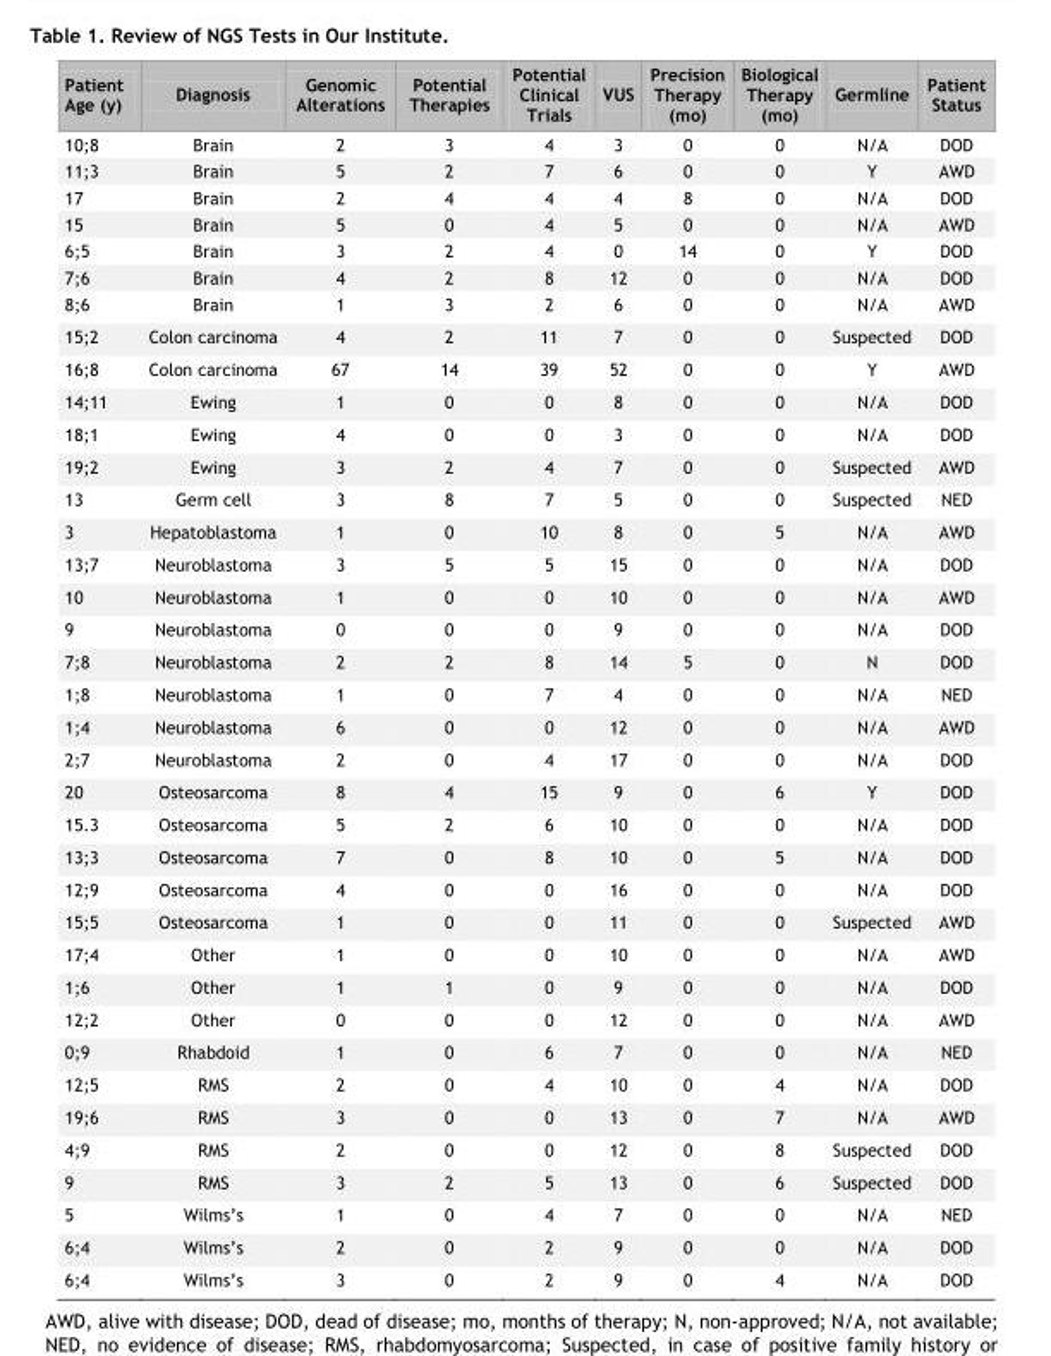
<table><thead><tr><td>Patient Age (y)</td><td>Diagnosis</td><td>Genomic Alterations</td><td>Potential Therapies</td><td>Potential Clinical Trials</td><td>VUS</td><td>Precision Therapy (mo)</td><td>Biological Therapy (mo)</td><td>Germline</td><td>Patient Status</td></tr></thead><tbody><tr><td>10;8</td><td>Brain</td><td>2</td><td>3</td><td>4</td><td>3</td><td>0</td><td>0</td><td>N/A</td><td>DOD</td></tr><tr><td>11;3</td><td>Brain</td><td>5</td><td>2</td><td>7</td><td>6</td><td>0</td><td>0</td><td>Y</td><td>AWD</td></tr><tr><td>17</td><td>Brain</td><td>2</td><td>4</td><td>4</td><td>4</td><td>8</td><td>0</td><td>N/A</td><td>DOD</td></tr><tr><td>15</td><td>Brain</td><td>5</td><td>0</td><td>4</td><td>5</td><td>0</td><td>0</td><td>N/A</td><td>AWD</td></tr><tr><td>6;5</td><td>Brain</td><td>3</td><td>2</td><td>4</td><td>0</td><td>14</td><td>0</td><td>Y</td><td>DOD</td></tr><tr><td>7;6</td><td>Brain</td><td>4</td><td>2</td><td>8</td><td>12</td><td>0</td><td>0</td><td>N/A</td><td>DOD</td></tr><tr><td>8;6</td><td>Brain</td><td>1</td><td>3</td><td>2</td><td>6</td><td>0</td><td>0</td><td>N/A</td><td>AWD</td></tr><tr><td>15;2</td><td>Colon carcinoma</td><td>4</td><td>2</td><td>11</td><td>7</td><td>0</td><td>0</td><td>Suspected</td><td>DOD</td></tr><tr><td>16;8</td><td>Colon carcinoma</td><td>67</td><td>14</td><td>39</td><td>52</td><td>0</td><td>0</td><td>Y</td><td>AWD</td></tr><tr><td>14;11</td><td>Ewing</td><td>1</td><td>0</td><td>0</td><td>8</td><td>0</td><td>0</td><td>N/A</td><td>DOD</td></tr><tr><td>18;1</td><td>Ewing</td><td>4</td><td>0</td><td>0</td><td>3</td><td>0</td><td>0</td><td>N/A</td><td>DOD</td></tr><tr><td>19;2</td><td>Ewing</td><td>3</td><td>2</td><td>4</td><td>7</td><td>0</td><td>0</td><td>Suspected</td><td>AWD</td></tr><tr><td>13</td><td>Germ cell</td><td>3</td><td>8</td><td>7</td><td>5</td><td>0</td><td>0</td><td>Suspected</td><td>NED</td></tr><tr><td>3</td><td>Hepatoblastoma</td><td>1</td><td>0</td><td>10</td><td>8</td><td>0</td><td>5</td><td>N/A</td><td>AWD</td></tr><tr><td>13;7</td><td>Neuroblastoma</td><td>3</td><td>5</td><td>5</td><td>15</td><td>0</td><td>0</td><td>N/A</td><td>DOD</td></tr><tr><td>10</td><td>Neuroblastoma</td><td>1</td><td>0</td><td>0</td><td>10</td><td>0</td><td>0</td><td>N/A</td><td>AWD</td></tr><tr><td>9</td><td>Neuroblastoma</td><td>0</td><td>0</td><td>0</td><td>9</td><td>0</td><td>0</td><td>N/A</td><td>DOD</td></tr><tr><td>7;8</td><td>Neuroblastoma</td><td>2</td><td>2</td><td>8</td><td>14</td><td>5</td><td>0</td><td>N</td><td>DOD</td></tr><tr><td>1;8</td><td>Neuroblastoma</td><td>1</td><td>0</td><td>7</td><td>4</td><td>0</td><td>0</td><td>N/A</td><td>NED</td></tr><tr><td>1;4</td><td>Neuroblastoma</td><td>6</td><td>0</td><td>0</td><td>12</td><td>0</td><td>0</td><td>N/A</td><td>AWD</td></tr><tr><td>2;7</td><td>Neuroblastoma</td><td>2</td><td>0</td><td>4</td><td>17</td><td>0</td><td>0</td><td>N/A</td><td>DOD</td></tr><tr><td>20</td><td>Osteosarcoma</td><td>8</td><td>4</td><td>15</td><td>9</td><td>0</td><td>6</td><td>Y</td><td>DOD</td></tr><tr><td>15.3</td><td>Osteosarcoma</td><td>5</td><td>2</td><td>6</td><td>10</td><td>0</td><td>0</td><td>N/A</td><td>DOD</td></tr><tr><td>13;3</td><td>Osteosarcoma</td><td>7</td><td>0</td><td>8</td><td>10</td><td>0</td><td>5</td><td>N/A</td><td>DOD</td></tr><tr><td>12;9</td><td>Osteosarcoma</td><td>4</td><td>0</td><td>0</td><td>16</td><td>0</td><td>0</td><td>N/A</td><td>DOD</td></tr><tr><td>15;5</td><td>Osteosarcoma</td><td>1</td><td>0</td><td>0</td><td>11</td><td>0</td><td>0</td><td>Suspected</td><td>AWD</td></tr><tr><td>17;4</td><td>Other</td><td>1</td><td>0</td><td>0</td><td>10</td><td>0</td><td>0</td><td>N/A</td><td>AWD</td></tr><tr><td>1;6</td><td>Other</td><td>1</td><td>1</td><td>0</td><td>9</td><td>0</td><td>0</td><td>N/A</td><td>DOD</td></tr><tr><td>12;2</td><td>Other</td><td>0</td><td>0</td><td>0</td><td>12</td><td>0</td><td>0</td><td>N/A</td><td>AWD</td></tr><tr><td>0;9</td><td>Rhabdoid</td><td>1</td><td>0</td><td>6</td><td>7</td><td>0</td><td>0</td><td>N/A</td><td>NED</td></tr><tr><td>12;5</td><td>RMS</td><td>2</td><td>0</td><td>4</td><td>10</td><td>0</td><td>4</td><td>N/A</td><td>DOD</td></tr><tr><td>19;6</td><td>RMS</td><td>3</td><td>0</td><td>0</td><td>13</td><td>0</td><td>7</td><td>N/A</td><td>AWD</td></tr><tr><td>4;9</td><td>RMS</td><td>2</td><td>0</td><td>0</td><td>12</td><td>0</td><td>8</td><td>Suspected</td><td>DOD</td></tr><tr><td>9</td><td>RMS</td><td>3</td><td>2</td><td>5</td><td>13</td><td>0</td><td>6</td><td>Suspected</td><td>DOD</td></tr><tr><td>5</td><td>Wilms’s</td><td>1</td><td>0</td><td>4</td><td>7</td><td>0</td><td>0</td><td>N/A</td><td>NED</td></tr><tr><td>6;4</td><td>Wilms’s</td><td>2</td><td>0</td><td>2</td><td>9</td><td>0</td><td>0</td><td>N/A</td><td>DOD</td></tr><tr><td>6;4</td><td>Wilms’s</td><td>3</td><td>0</td><td>2</td><td>9</td><td>0</td><td>4</td><td>N/A</td><td>DOD</td></tr></tbody></table>